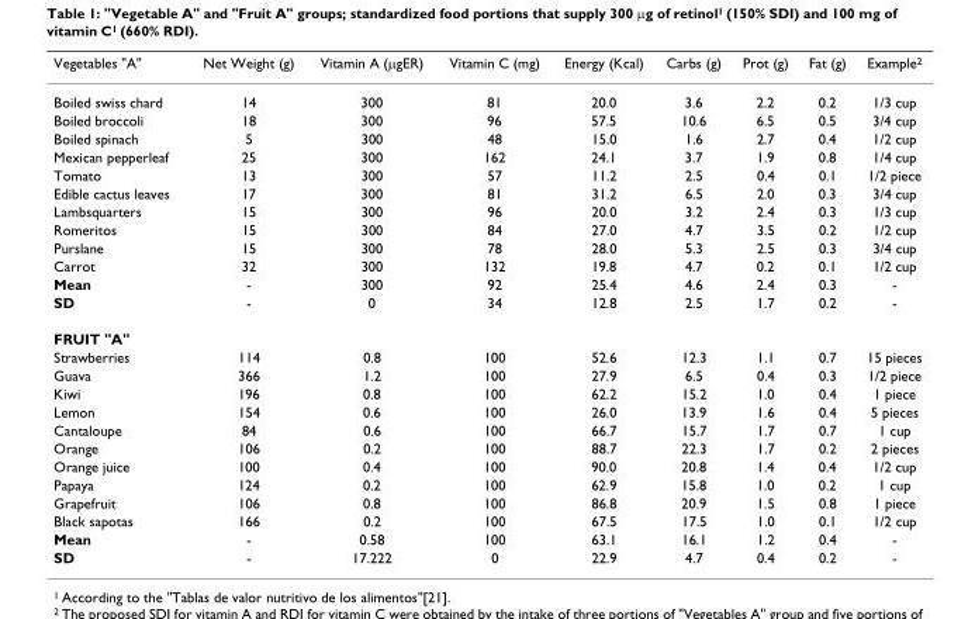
<table><thead><tr><td>Vegetables &quot;A&quot;</td><td>Net Weight (g)</td><td>Vitamin A (μgER)</td><td>Vitamin C (mg)</td><td>Energy (Kcal)</td><td>Carbs (g)</td><td>Prot (g)</td><td>Fat (g)</td><td>Example<sup>2</sup></td></tr></thead><tbody><tr><td>Boiled swiss chard</td><td>14</td><td>300</td><td>81</td><td>20.0</td><td>3.6</td><td>2.2</td><td>0.2</td><td>1/3 cup</td></tr><tr><td>Boiled broccoli</td><td>18</td><td>300</td><td>96</td><td>57.5</td><td>10.6</td><td>6.5</td><td>0.5</td><td>3/4 cup</td></tr><tr><td>Boiled spinach</td><td>5</td><td>300</td><td>48</td><td>15.0</td><td>1.6</td><td>2.7</td><td>0.4</td><td>1/2 cup</td></tr><tr><td>Mexican pepperleaf</td><td>25</td><td>300</td><td>162</td><td>24.1</td><td>3.7</td><td>1.9</td><td>0.8</td><td>1/4 cup</td></tr><tr><td>Tomato</td><td>13</td><td>300</td><td>57</td><td>11.2</td><td>2.5</td><td>0.4</td><td>0.1</td><td>1/2 piece</td></tr><tr><td>Edible cactus leaves</td><td>17</td><td>300</td><td>81</td><td>31.2</td><td>6.5</td><td>2.0</td><td>0.3</td><td>3/4 cup</td></tr><tr><td>Lambsquarters</td><td>15</td><td>300</td><td>96</td><td>20.0</td><td>3.2</td><td>2.4</td><td>0.3</td><td>1/3 cup</td></tr><tr><td>Romeritos</td><td>15</td><td>300</td><td>84</td><td>27.0</td><td>4.7</td><td>3.5</td><td>0.2</td><td>1/2 cup</td></tr><tr><td>Purslane</td><td>15</td><td>300</td><td>78</td><td>28.0</td><td>5.3</td><td>2.5</td><td>0.3</td><td>3/4 cup</td></tr><tr><td>Carrot</td><td>32</td><td>300</td><td>132</td><td>19.8</td><td>4.7</td><td>0.2</td><td>0.1</td><td>1/2 cup</td></tr><tr><td>Mean</td><td>-</td><td>300</td><td>92</td><td>25.4</td><td>4.6</td><td>2.4</td><td>0.3</td><td>-</td></tr><tr><td>SD</td><td>-</td><td>0</td><td>34</td><td>12.8</td><td>2.5</td><td>1.7</td><td>0.2</td><td>-</td></tr><tr><td colspan="9">FRUIT &quot;A&quot;</td></tr><tr><td>Strawberries</td><td>114</td><td>0.8</td><td>100</td><td>52.6</td><td>12.3</td><td>1.1</td><td>0.7</td><td>15 pieces</td></tr><tr><td>Guava</td><td>366</td><td>1.2</td><td>100</td><td>27.9</td><td>6.5</td><td>0.4</td><td>0.3</td><td>1/2 piece</td></tr><tr><td>Kiwi</td><td>196</td><td>0.8</td><td>100</td><td>62.2</td><td>15.2</td><td>1.0</td><td>0.4</td><td>1 piece</td></tr><tr><td>Lemon</td><td>154</td><td>0.6</td><td>100</td><td>26.0</td><td>13.9</td><td>1.6</td><td>0.4</td><td>5 pieces</td></tr><tr><td>Cantaloupe</td><td>84</td><td>0.6</td><td>100</td><td>66.7</td><td>15.7</td><td>1.7</td><td>0.7</td><td>1 cup</td></tr><tr><td>Orange</td><td>106</td><td>0.2</td><td>100</td><td>88.7</td><td>22.3</td><td>1.7</td><td>0.2</td><td>2 pieces</td></tr><tr><td>Orange juice</td><td>100</td><td>0.4</td><td>100</td><td>90.0</td><td>20.8</td><td>1.4</td><td>0.4</td><td>1/2 cup</td></tr><tr><td>Papaya</td><td>124</td><td>0.2</td><td>100</td><td>62.9</td><td>15.8</td><td>1.0</td><td>0.2</td><td>1 cup</td></tr><tr><td>Grapefruit</td><td>106</td><td>0.8</td><td>100</td><td>86.8</td><td>20.9</td><td>1.5</td><td>0.8</td><td>1 piece</td></tr><tr><td>Black sapotas</td><td>166</td><td>0.2</td><td>100</td><td>67.5</td><td>17.5</td><td>1.0</td><td>0.1</td><td>1/2 cup</td></tr><tr><td>Mean</td><td>-</td><td>0.58</td><td>100</td><td>63.1</td><td>16.1</td><td>1.2</td><td>0.4</td><td>-</td></tr><tr><td>SD</td><td>-</td><td>17.222</td><td>0</td><td>22.9</td><td>4.7</td><td>0.4</td><td>0.2</td><td>-</td></tr></tbody></table>